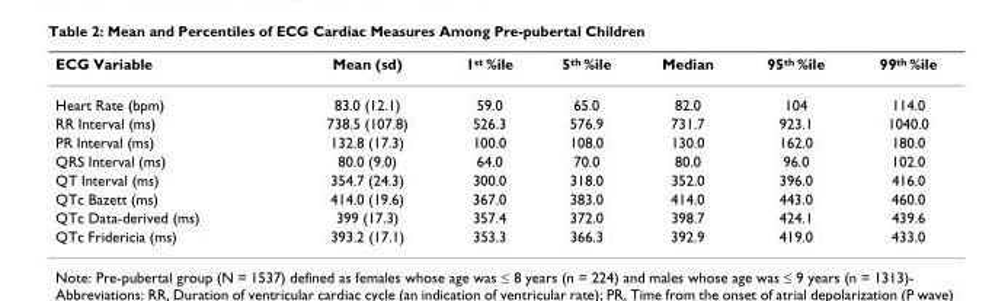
<table><thead><tr><td>ECG Variable</td><td>Mean (sd)</td><td>1<sup>st</sup> %ile</td><td>5<sup>th</sup> %ile</td><td>Median</td><td>95<sup>th</sup> %ile</td><td>99<sup>th</sup> %ile</td></tr></thead><tbody><tr><td>Heart Rate (bpm)</td><td>83.0 (12.1)</td><td>59.0</td><td>65.0</td><td>82.0</td><td>104</td><td>114.0</td></tr><tr><td>RR Interval (ms)</td><td>738.5 (107.8)</td><td>526.3</td><td>576.9</td><td>731.7</td><td>923.1</td><td>1040.0</td></tr><tr><td>PR Interval (ms)</td><td>132.8 (17.3)</td><td>100.0</td><td>108.0</td><td>130.0</td><td>162.0</td><td>180.0</td></tr><tr><td>QRS Interval (ms)</td><td>80.0 (9.0)</td><td>64.0</td><td>70.0</td><td>80.0</td><td>96.0</td><td>102.0</td></tr><tr><td>QT Interval (ms)</td><td>354.7 (24.3)</td><td>300.0</td><td>318.0</td><td>352.0</td><td>396.0</td><td>416.0</td></tr><tr><td>QTc Bazett (ms)</td><td>414.0 (19.6)</td><td>367.0</td><td>383.0</td><td>414.0</td><td>443.0</td><td>460.0</td></tr><tr><td>QTc Data-derived (ms)</td><td>399 (17.3)</td><td>357.4</td><td>372.0</td><td>398.7</td><td>424.1</td><td>439.6</td></tr><tr><td>QTc Fridericia (ms)</td><td>393.2 (17.1)</td><td>353.3</td><td>366.3</td><td>392.9</td><td>419.0</td><td>433.0</td></tr></tbody></table>